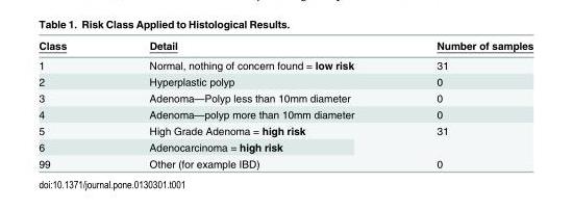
<table><thead><tr><td>Class</td><td>Detail</td><td>Number of samples</td></tr></thead><tbody><tr><td>1</td><td>Normal, nothing of concern found = low risk</td><td>31</td></tr><tr><td>2</td><td>Hyperplastic polyp</td><td>0</td></tr><tr><td>3</td><td>Adenoma—Polyp less than 10mm diameter</td><td>0</td></tr><tr><td>4</td><td>Adenoma—polyp more than 10mm diameter</td><td>0</td></tr><tr><td>5</td><td>High Grade Adenoma = high risk</td><td rowspan="2">31</td></tr><tr><td>6</td><td>Adenocarcinoma = high risk</td></tr><tr><td>99</td><td>Other (for example IBD)</td><td>0</td></tr></tbody></table>